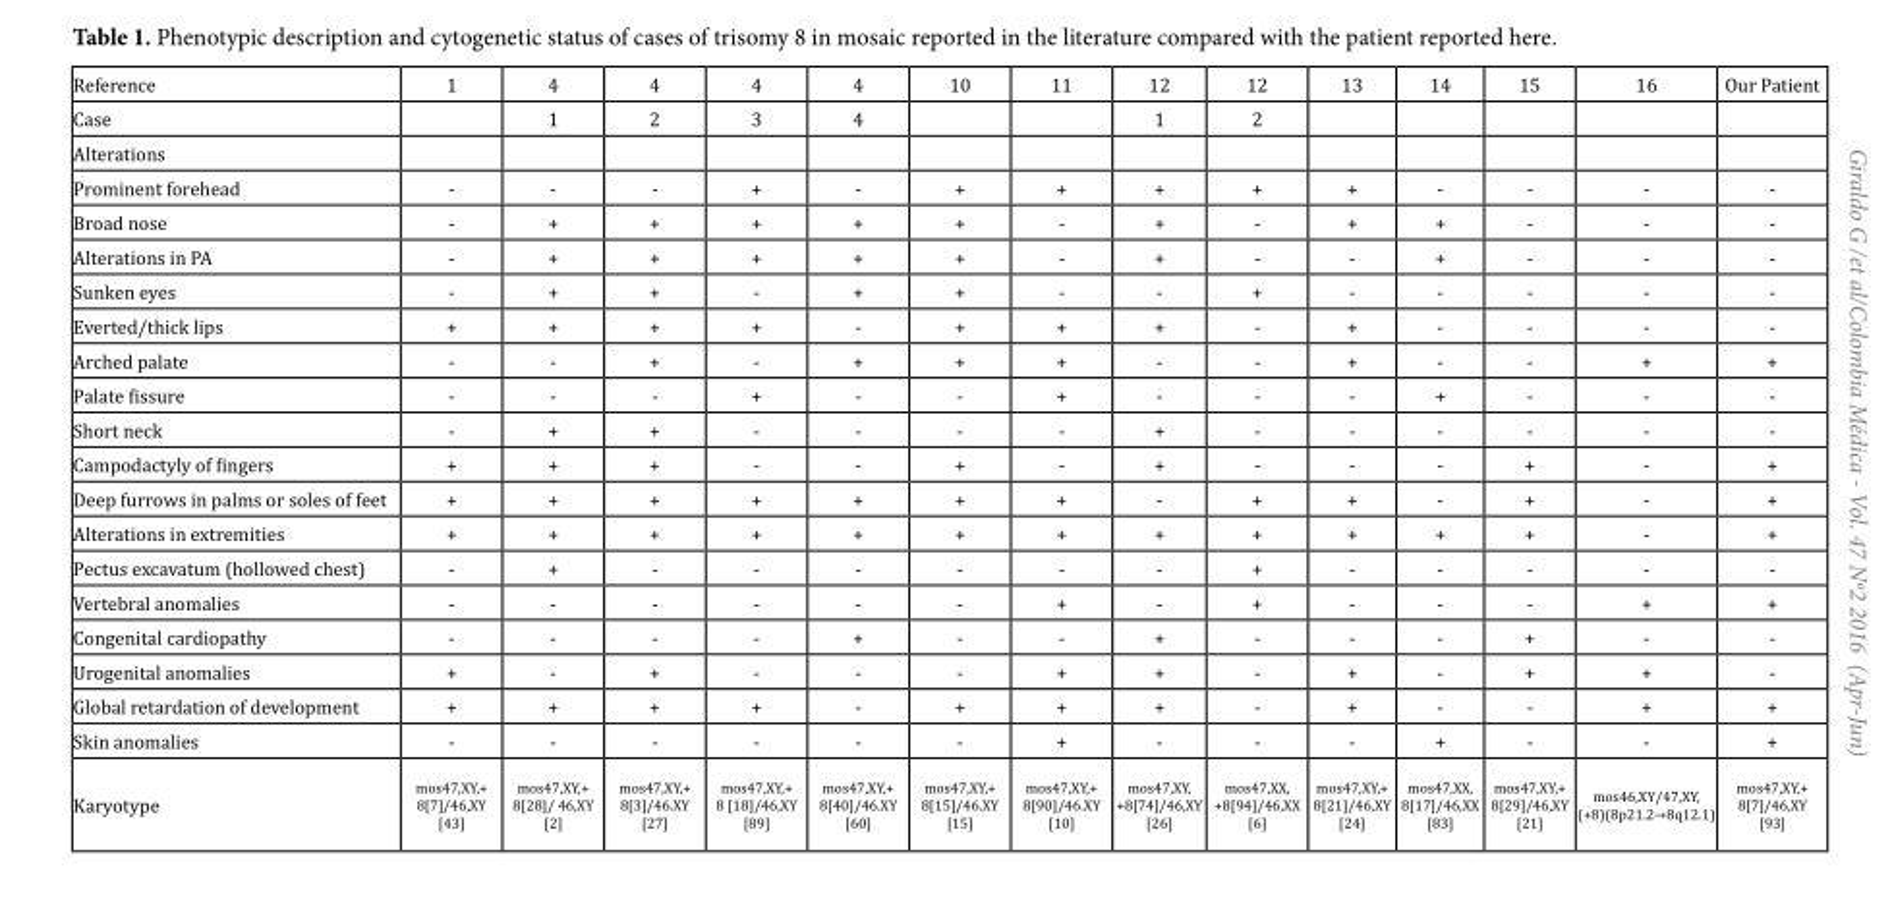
<table><tbody><tr><td>Reference</td><td>1</td><td>4</td><td>4</td><td>4</td><td>4</td><td>10</td><td>11</td><td>12</td><td>12</td><td>13</td><td>14</td><td>15</td><td>16</td><td>Our Patient</td></tr><tr><td>Case</td><td></td><td>1</td><td>2</td><td>3</td><td>4</td><td></td><td></td><td>1</td><td>2</td><td></td><td></td><td></td><td></td><td></td></tr><tr><td colspan="15">Alterations</td></tr><tr><td>Prominent forehead</td><td>-</td><td>-</td><td>-</td><td>+</td><td>-</td><td>+</td><td>+</td><td>+</td><td>+</td><td>+</td><td>-</td><td>-</td><td>-</td><td>-</td></tr><tr><td>Broad nose</td><td>-</td><td>+</td><td>+</td><td>+</td><td>+</td><td>+</td><td>-</td><td>+</td><td>-</td><td>+</td><td>+</td><td>-</td><td>-</td><td>-</td></tr><tr><td>Alterations in PA</td><td>-</td><td>+</td><td>+</td><td>+</td><td>+</td><td>+</td><td>-</td><td>+</td><td>-</td><td>-</td><td>+</td><td>-</td><td>-</td><td>-</td></tr><tr><td>Sunken eyes</td><td>-</td><td>+</td><td>+</td><td>-</td><td>+</td><td>+</td><td>-</td><td>-</td><td>+</td><td>-</td><td>-</td><td>-</td><td>-</td><td>-</td></tr><tr><td>Everted/thick lips</td><td>+</td><td>+</td><td>+</td><td>+</td><td>-</td><td>+</td><td>+</td><td>+</td><td>-</td><td>+</td><td>-</td><td>-</td><td>-</td><td>-</td></tr><tr><td>Arched palate</td><td>-</td><td>-</td><td>+</td><td>-</td><td>+</td><td>+</td><td>+</td><td>-</td><td>-</td><td>+</td><td>-</td><td>-</td><td>+</td><td>+</td></tr><tr><td>Palate fissure</td><td>-</td><td>-</td><td>-</td><td>+</td><td>-</td><td>-</td><td>+</td><td>-</td><td>-</td><td>-</td><td>+</td><td>-</td><td>-</td><td>-</td></tr><tr><td>Short neck</td><td>-</td><td>+</td><td>+</td><td>-</td><td>-</td><td>-</td><td>-</td><td>+</td><td>-</td><td>-</td><td>-</td><td>-</td><td>-</td><td>-</td></tr><tr><td>Campodactyly of fingers</td><td>+</td><td>+</td><td>+</td><td>-</td><td>-</td><td>+</td><td>-</td><td>+</td><td>-</td><td>-</td><td>-</td><td>+</td><td>-</td><td>+</td></tr><tr><td>Deep furrows in palms or soles of feet</td><td>+</td><td>+</td><td>+</td><td>+</td><td>+</td><td>+</td><td>+</td><td>-</td><td>+</td><td>+</td><td>-</td><td>+</td><td>-</td><td>+</td></tr><tr><td>Alterations in extremities</td><td>+</td><td>+</td><td>+</td><td>+</td><td>+</td><td>+</td><td>+</td><td>+</td><td>+</td><td>+</td><td>+</td><td>+</td><td>-</td><td>+</td></tr><tr><td>Pectus excavatum (hollowed chest)</td><td>-</td><td>+</td><td>-</td><td>-</td><td>-</td><td>-</td><td>-</td><td>-</td><td>+</td><td>-</td><td>-</td><td>-</td><td>-</td><td>-</td></tr><tr><td>Vertebral anomalies</td><td>-</td><td>-</td><td>-</td><td>-</td><td>-</td><td>-</td><td>+</td><td>-</td><td>+</td><td>-</td><td>-</td><td>-</td><td>+</td><td>+</td></tr><tr><td>Congenital cardiopathy</td><td>-</td><td>-</td><td>-</td><td>-</td><td>+</td><td>-</td><td>-</td><td>+</td><td>-</td><td>-</td><td>-</td><td>+</td><td>-</td><td>-</td></tr><tr><td>Urogenital anomalies</td><td>+</td><td>-</td><td>+</td><td>-</td><td>-</td><td>-</td><td>+</td><td>+</td><td>-</td><td>+</td><td>-</td><td>+</td><td>+</td><td>-</td></tr><tr><td>Global retardation of development</td><td>+</td><td>+</td><td>+</td><td>+</td><td>-</td><td>+</td><td>+</td><td>+</td><td>-</td><td>+</td><td>-</td><td>-</td><td>+</td><td>+</td></tr><tr><td>Skin anomalies</td><td>-</td><td>-</td><td>-</td><td>-</td><td>-</td><td>-</td><td>+</td><td>-</td><td>-</td><td>-</td><td>+</td><td>-</td><td>-</td><td>+</td></tr><tr><td>Karyotype</td><td>mos47,XY,+ 8[7]/46,XY [43]</td><td>mos47,XY,+ 8[28]/ 46,XY [2]</td><td>mos47,XY,+ 8[3]/46.XY [27]</td><td>mos47,XY,+ 8 [18]/46,XY [89]</td><td>mos47,XY,+ 8[40]/46.XY [60]</td><td>mos47,XY,+ 8[15]/46.XY [15]</td><td>mos47,XY,+ 8[90]/46.XY [10]</td><td>mos47,XY, +8[74]/46,XY [26]</td><td>mos47,XX, +8[94]/46,XX [6]</td><td>mos47,XY,+ 8[21]/46,XY [24]</td><td>mos47,XX, 8[17]/46,XX [83]</td><td>mos47,XY,+ 8[29]/46,XY [21]</td><td>mos46,XY/47,XY, (+8)(8p21.2→8q12.1)</td><td>mos47,XY,+ 8[7]/46,XY [93]</td></tr></tbody></table>